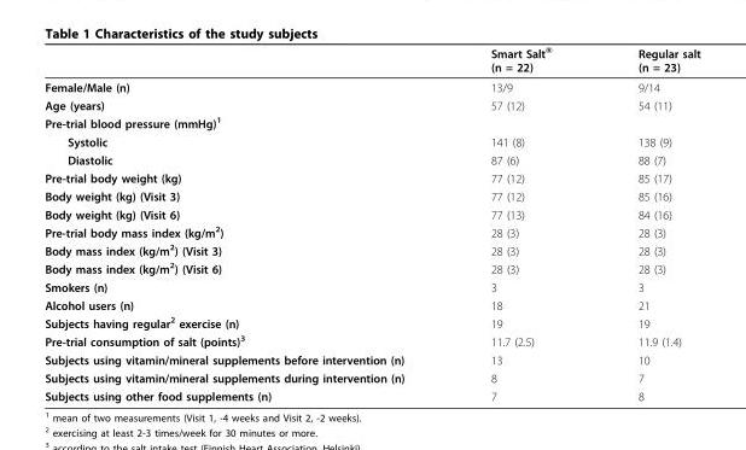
<table><thead><tr><td></td><td>Smart Salt<sup>®</sup> (n = 22)</td><td>Regular salt (n = 23)</td></tr></thead><tbody><tr><td>Female/Male (n)</td><td>13/9</td><td>9/14</td></tr><tr><td>Age (years)</td><td>57 (12)</td><td>54 (11)</td></tr><tr><td colspan="3">Pre-trial blood pressure (mmHg)<sup>1</sup></td></tr><tr><td>Systolic</td><td>141 (8)</td><td>138 (9)</td></tr><tr><td>Diastolic</td><td>87 (6)</td><td>88 (7)</td></tr><tr><td>Pre-trial body weight (kg)</td><td>77 (12)</td><td>85 (17)</td></tr><tr><td>Body weight (kg) (Visit 3)</td><td>77 (12)</td><td>85 (16)</td></tr><tr><td>Body weight (kg) (Visit 6)</td><td>77 (13)</td><td>84 (16)</td></tr><tr><td>Pre-trial body mass index (kg/m<sup>2</sup>)</td><td>28 (3)</td><td>28 (3)</td></tr><tr><td>Body mass index (kg/m<sup>2</sup>) (Visit 3)</td><td>28 (3)</td><td>28 (3)</td></tr><tr><td>Body mass index (kg/m<sup>2</sup>) (Visit 6)</td><td>28 (3)</td><td>28 (3)</td></tr><tr><td>Smokers (n)</td><td>3</td><td>3</td></tr><tr><td>Alcohol users (n)</td><td>18</td><td>21</td></tr><tr><td>Subjects having regular<sup>2</sup> exercise (n)</td><td>19</td><td>19</td></tr><tr><td>Pre-trial consumption of salt (points)<sup>3</sup></td><td>11.7 (2.5)</td><td>11.9 (1.4)</td></tr><tr><td>Subjects using vitamin/mineral supplements before intervention (n)</td><td>13</td><td>10</td></tr><tr><td>Subjects using vitamin/mineral supplements during intervention (n)</td><td>8</td><td>7</td></tr><tr><td>Subjects using other food supplements (n)</td><td>7</td><td>8</td></tr></tbody></table>